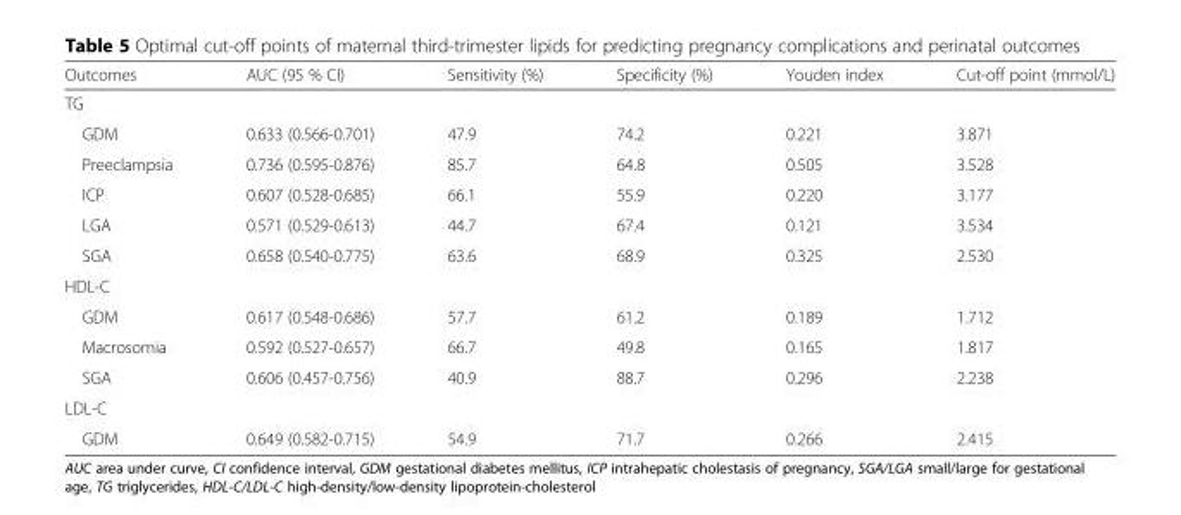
<table><thead><tr><td>Outcomes</td><td>AUC (95 % CI)</td><td>Sensitivity (%)</td><td>Specificity (%)</td><td>Youden index</td><td>Cut-off point (mmol/L)</td></tr></thead><tbody><tr><td colspan="6">TG</td></tr><tr><td>GDM</td><td>0.633 (0.566-0.701)</td><td>47.9</td><td>74.2</td><td>0.221</td><td>3.871</td></tr><tr><td>Preeclampsia</td><td>0.736 (0.595-0.876)</td><td>85.7</td><td>64.8</td><td>0.505</td><td>3.528</td></tr><tr><td>ICP</td><td>0.607 (0.528-0.685)</td><td>66.1</td><td>55.9</td><td>0.220</td><td>3.177</td></tr><tr><td>LGA</td><td>0.571 (0.529-0.613)</td><td>44.7</td><td>67.4</td><td>0.121</td><td>3.534</td></tr><tr><td>SGA</td><td>0.658 (0.540-0.775)</td><td>63.6</td><td>68.9</td><td>0.325</td><td>2.530</td></tr><tr><td colspan="6">HDL-C</td></tr><tr><td>GDM</td><td>0.617 (0.548-0.686)</td><td>57.7</td><td>61.2</td><td>0.189</td><td>1.712</td></tr><tr><td>Macrosomia</td><td>0.592 (0.527-0.657)</td><td>66.7</td><td>49.8</td><td>0.165</td><td>1.817</td></tr><tr><td>SGA</td><td>0.606 (0.457-0.756)</td><td>40.9</td><td>88.7</td><td>0.296</td><td>2.238</td></tr><tr><td colspan="6">LDL-C</td></tr><tr><td>GDM</td><td>0.649 (0.582-0.715)</td><td>54.9</td><td>71.7</td><td>0.266</td><td>2.415</td></tr></tbody></table>